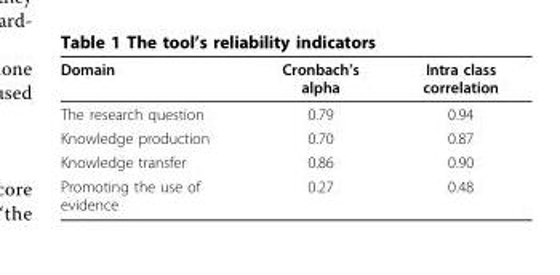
<table><thead><tr><td>Domain</td><td>Cronbach’s alpha</td><td>Intra class correlation</td></tr></thead><tbody><tr><td>The research question</td><td>0.79</td><td>0.94</td></tr><tr><td>Knowledge production</td><td>0.70</td><td>0.87</td></tr><tr><td>Knowledge transfer</td><td>0.86</td><td>0.90</td></tr><tr><td>Promoting the use of evidence</td><td>0.27</td><td>0.48</td></tr></tbody></table>